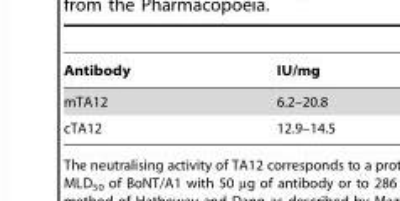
<table><thead><tr><td>Antibody</td><td>IU/mg</td></tr></thead><tbody><tr><td>mTA12</td><td>6.2–20.8</td></tr><tr><td>cTA12</td><td>12.9–14.5</td></tr></tbody></table>